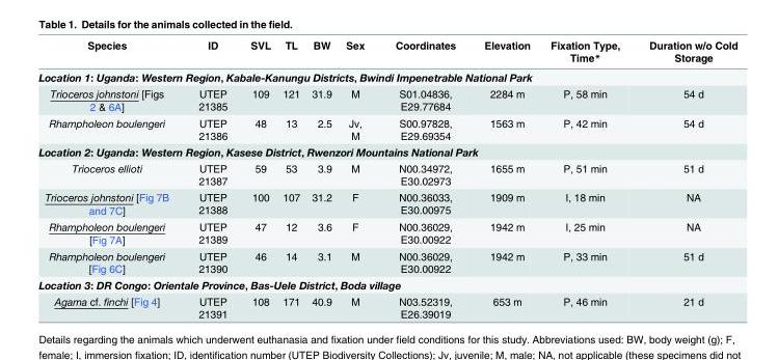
<table><thead><tr><td>Species</td><td>ID</td><td>SVL</td><td>TL</td><td>BW</td><td>Sex</td><td>Coordinates</td><td>Elevation</td><td>Fixation Type, Time*</td><td>Duration w/o Cold Storage</td></tr></thead><tbody><tr><td colspan="10">Location 1: Uganda: Western Region, Kabale-Kanungu Districts, Bwindi Impenetrable National Park</td></tr><tr><td>Trioceros johnstoni [Figs 2 &amp; 6A]</td><td>UTEP 21385</td><td>109</td><td>121</td><td>31.9</td><td>M</td><td>S01.04836, E29.77684</td><td>2284 m</td><td>P, 58 min</td><td>54 d</td></tr><tr><td>Rhampholeon boulengeri</td><td>UTEP 21386</td><td>48</td><td>13</td><td>2.5</td><td>Jv, M</td><td>S00.97828, E29.69354</td><td>1563 m</td><td>P, 42 min</td><td>54 d</td></tr><tr><td colspan="10">Location 2: Uganda: Western Region, Kasese District, Rwenzori Mountains National Park</td></tr><tr><td>Trioceros ellioti</td><td>UTEP 21387</td><td>59</td><td>53</td><td>3.9</td><td>M</td><td>N00.34972, E30.02973</td><td>1655 m</td><td>P, 51 min</td><td>51 d</td></tr><tr><td>Trioceros johnstoni [Fig 7B and 7C]</td><td>UTEP 21388</td><td>100</td><td>107</td><td>31.2</td><td>F</td><td>N00.36033, E30.00975</td><td>1909 m</td><td>I, 18 min</td><td>NA</td></tr><tr><td>Rhampholeon boulengeri [Fig 7A]</td><td>UTEP 21389</td><td>47</td><td>12</td><td>3.6</td><td>F</td><td>N00.36029, E30.00922</td><td>1942 m</td><td>I, 25 min</td><td>NA</td></tr><tr><td>Rhampholeon boulengeri [Fig 6C]</td><td>UTEP 21390</td><td>46</td><td>14</td><td>3.1</td><td>M</td><td>N00.36029, E30.00922</td><td>1942 m</td><td>P, 33 min</td><td>51 d</td></tr><tr><td colspan="10">Location 3: DR Congo: Orientale Province, Bas-Uele District, Boda village</td></tr><tr><td>Agama cf. finchi [Fig 4]</td><td>UTEP 21391</td><td>108</td><td>171</td><td>40.9</td><td>M</td><td>N03.52319, E26.39019</td><td>653 m</td><td>P, 46 min</td><td>21 d</td></tr></tbody></table>